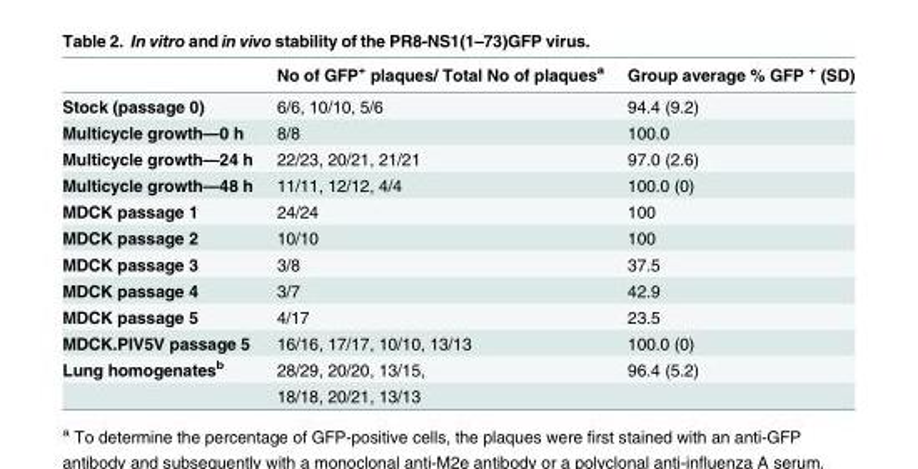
<table><thead><tr><td></td><td>No of GFP<sup>+</sup> plaques/ Total No of plaques<sup>a</sup></td><td>Group average % GFP <sup>+</sup> (SD)</td></tr></thead><tbody><tr><td>Stock (passage 0)</td><td>6/6, 10/10, 5/6</td><td>94.4 (9.2)</td></tr><tr><td>Multicycle growth—0 h</td><td>8/8</td><td>100.0</td></tr><tr><td>Multicycle growth—24 h</td><td>22/23, 20/21, 21/21</td><td>97.0 (2.6)</td></tr><tr><td>Multicycle growth—48 h</td><td>11/11, 12/12, 4/4</td><td>100.0 (0)</td></tr><tr><td>MDCK passage 1</td><td>24/24</td><td>100</td></tr><tr><td>MDCK passage 2</td><td>10/10</td><td>100</td></tr><tr><td>MDCK passage 3</td><td>3/8</td><td>37.5</td></tr><tr><td>MDCK passage 4</td><td>3/7</td><td>42.9</td></tr><tr><td>MDCK passage 5</td><td>4/17</td><td>23.5</td></tr><tr><td>MDCK.PIV5V passage 5</td><td>16/16, 17/17, 10/10, 13/13</td><td>100.0 (0)</td></tr><tr><td rowspan="2">Lung homogenates<sup>b</sup></td><td>28/29, 20/20, 13/15,</td><td>96.4 (5.2)</td></tr><tr><td>18/18, 20/21, 13/13</td><td></td></tr></tbody></table>